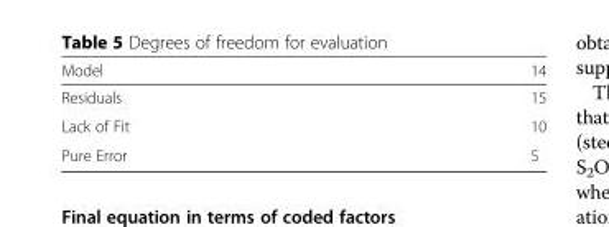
<table><thead><tr><td>Model</td><td>14</td></tr></thead><tbody><tr><td>Residuals</td><td>15</td></tr><tr><td>Lack of Fit</td><td>10</td></tr><tr><td>Pure Error</td><td>5</td></tr></tbody></table>